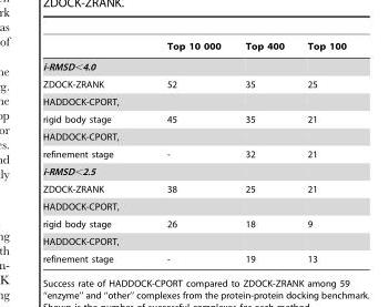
<table><thead><tr><td></td><td>Top 10 000</td><td>Top 400</td><td>Top 100</td></tr></thead><tbody><tr><td colspan="4">i-RMSD&lt;4.0</td></tr><tr><td>ZDOCK-ZRANK</td><td>52</td><td>35</td><td>25</td></tr><tr><td colspan="4">HADDOCK-CPORT,</td></tr><tr><td>rigid body stage</td><td>45</td><td>35</td><td>21</td></tr><tr><td colspan="4">HADDOCK-CPORT,</td></tr><tr><td>refinement stage</td><td>-</td><td>32</td><td>21</td></tr><tr><td colspan="4">i-RMSD&lt;2.5</td></tr><tr><td>ZDOCK-ZRANK</td><td>38</td><td>25</td><td>21</td></tr><tr><td colspan="4">HADDOCK-CPORT,</td></tr><tr><td>rigid body stage</td><td>26</td><td>18</td><td>9</td></tr><tr><td colspan="4">HADDOCK-CPORT,</td></tr><tr><td>refinement stage</td><td>-</td><td>19</td><td>13</td></tr></tbody></table>